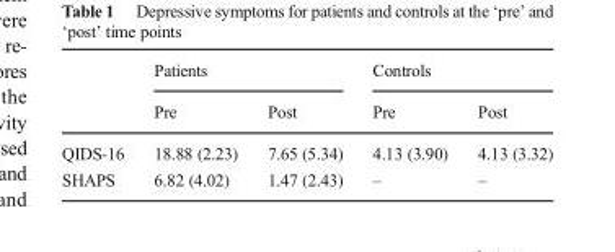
<table><thead><tr><td rowspan="2"></td><td colspan="2">Patients</td><td colspan="2">Controls</td></tr><tr><td>Pre</td><td>Post</td><td>Pre</td><td>Post</td></tr></thead><tbody><tr><td>QIDS-16</td><td>18.88 (2.23)</td><td>7.65 (5.34)</td><td>4.13 (3.90)</td><td>4.13 (3.32)</td></tr><tr><td>SHAPS</td><td>6.82 (4.02)</td><td>1.47 (2.43)</td><td>–</td><td>–</td></tr></tbody></table>